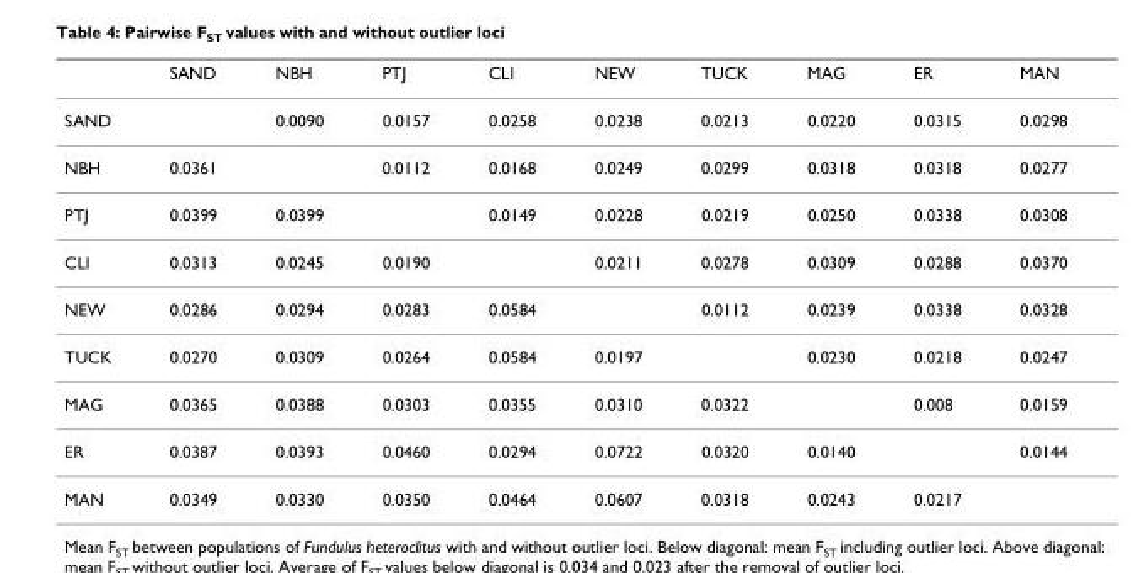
<table><thead><tr><td></td><td>SAND</td><td>NBH</td><td>PTJ</td><td>CLI</td><td>NEW</td><td>TUCK</td><td>MAG</td><td>ER</td><td>MAN</td></tr></thead><tbody><tr><td>SAND</td><td></td><td>0.0090</td><td>0.0157</td><td>0.0258</td><td>0.0238</td><td>0.0213</td><td>0.0220</td><td>0.0315</td><td>0.0298</td></tr><tr><td>NBH</td><td>0.0361</td><td></td><td>0.0112</td><td>0.0168</td><td>0.0249</td><td>0.0299</td><td>0.0318</td><td>0.0318</td><td>0.0277</td></tr><tr><td>PTJ</td><td>0.0399</td><td>0.0399</td><td></td><td>0.0149</td><td>0.0228</td><td>0.0219</td><td>0.0250</td><td>0.0338</td><td>0.0308</td></tr><tr><td>CLI</td><td>0.0313</td><td>0.0245</td><td>0.0190</td><td></td><td>0.0211</td><td>0.0278</td><td>0.0309</td><td>0.0288</td><td>0.0370</td></tr><tr><td>NEW</td><td>0.0286</td><td>0.0294</td><td>0.0283</td><td>0.0584</td><td></td><td>0.0112</td><td>0.0239</td><td>0.0338</td><td>0.0328</td></tr><tr><td>TUCK</td><td>0.0270</td><td>0.0309</td><td>0.0264</td><td>0.0584</td><td>0.0197</td><td></td><td>0.0230</td><td>0.0218</td><td>0.0247</td></tr><tr><td>MAG</td><td>0.0365</td><td>0.0388</td><td>0.0303</td><td>0.0355</td><td>0.0310</td><td>0.0322</td><td></td><td>0.008</td><td>0.0159</td></tr><tr><td>ER</td><td>0.0387</td><td>0.0393</td><td>0.0460</td><td>0.0294</td><td>0.0722</td><td>0.0320</td><td>0.0140</td><td></td><td>0.0144</td></tr><tr><td>MAN</td><td>0.0349</td><td>0.0330</td><td>0.0350</td><td>0.0464</td><td>0.0607</td><td>0.0318</td><td>0.0243</td><td>0.0217</td><td></td></tr></tbody></table>